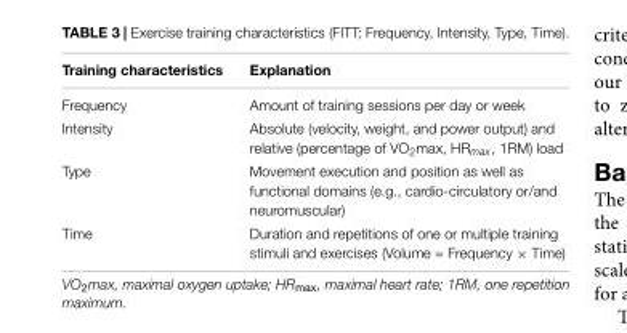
<table><thead><tr><td>Training characteristics</td><td>Explanation</td></tr></thead><tbody><tr><td>Frequency</td><td>Amount of training sessions per day or week</td></tr><tr><td>Intensity</td><td>Absolute (velocity, weight, and power output) and relative (percentage of VO<sub>2</sub>max, HR<sub>max</sub>, 1RM) load</td></tr><tr><td>Type</td><td>Movement execution and position as well as functional domains (e.g., cardio-circulatory or/and neuromuscular)</td></tr><tr><td>Time</td><td>Duration and repetitions of one or multiple training stimuli and exercises (Volume = Frequency × Time)</td></tr></tbody></table>